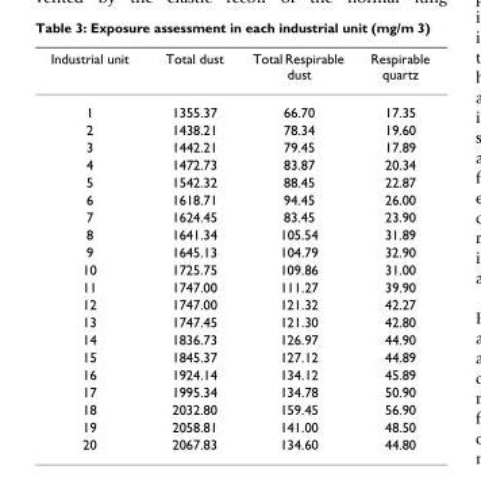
<table><thead><tr><td>Industrial unit</td><td>Total dust</td><td>Total Respirable dust</td><td>Respirable quartz</td></tr></thead><tbody><tr><td>1</td><td>1355.37</td><td>66.70</td><td>17.35</td></tr><tr><td>2</td><td>1438.21</td><td>78.34</td><td>19.60</td></tr><tr><td>3</td><td>1442.21</td><td>79.45</td><td>17.89</td></tr><tr><td>4</td><td>1472.73</td><td>83.87</td><td>20.34</td></tr><tr><td>5</td><td>1542.32</td><td>88.45</td><td>22.87</td></tr><tr><td>6</td><td>1618.71</td><td>94.45</td><td>26.00</td></tr><tr><td>7</td><td>1624.45</td><td>83.45</td><td>23.90</td></tr><tr><td>8</td><td>1641.34</td><td>105.54</td><td>31.89</td></tr><tr><td>9</td><td>1645.13</td><td>104.79</td><td>32.90</td></tr><tr><td>10</td><td>1725.75</td><td>109.86</td><td>31.00</td></tr><tr><td>11</td><td>1747.00</td><td>111.27</td><td>39.90</td></tr><tr><td>12</td><td>1747.00</td><td>121.32</td><td>42.27</td></tr><tr><td>13</td><td>1747.45</td><td>121.30</td><td>42.80</td></tr><tr><td>14</td><td>1836.73</td><td>126.97</td><td>44.90</td></tr><tr><td>15</td><td>1845.37</td><td>127.12</td><td>44.89</td></tr><tr><td>16</td><td>1924.14</td><td>134.12</td><td>45.89</td></tr><tr><td>17</td><td>1995.34</td><td>134.78</td><td>50.90</td></tr><tr><td>18</td><td>2032.80</td><td>159.45</td><td>56.90</td></tr><tr><td>19</td><td>2058.81</td><td>141.00</td><td>48.50</td></tr><tr><td>20</td><td>2067.83</td><td>134.60</td><td>44.80</td></tr></tbody></table>